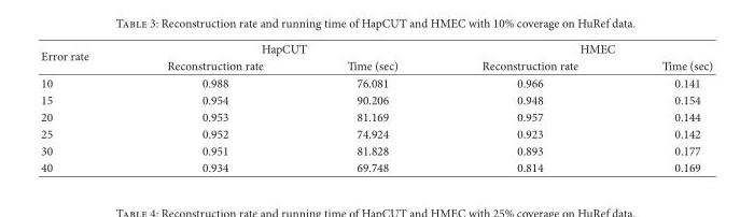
<table><thead><tr><td rowspan="2">Error rate</td><td colspan="2">HapCUT</td><td colspan="2">HMEC</td></tr><tr><td>Reconstruction rate</td><td>Time (sec)</td><td>Reconstruction rate</td><td>Time (sec)</td></tr></thead><tbody><tr><td>10</td><td>0.988</td><td>76.081</td><td>0.966</td><td>0.141</td></tr><tr><td>15</td><td>0.954</td><td>90.206</td><td>0.948</td><td>0.154</td></tr><tr><td>20</td><td>0.953</td><td>81.169</td><td>0.957</td><td>0.144</td></tr><tr><td>25</td><td>0.952</td><td>74.924</td><td>0.923</td><td>0.142</td></tr><tr><td>30</td><td>0.951</td><td>81.828</td><td>0.893</td><td>0.177</td></tr><tr><td>40</td><td>0.934</td><td>69.748</td><td>0.814</td><td>0.169</td></tr></tbody></table>